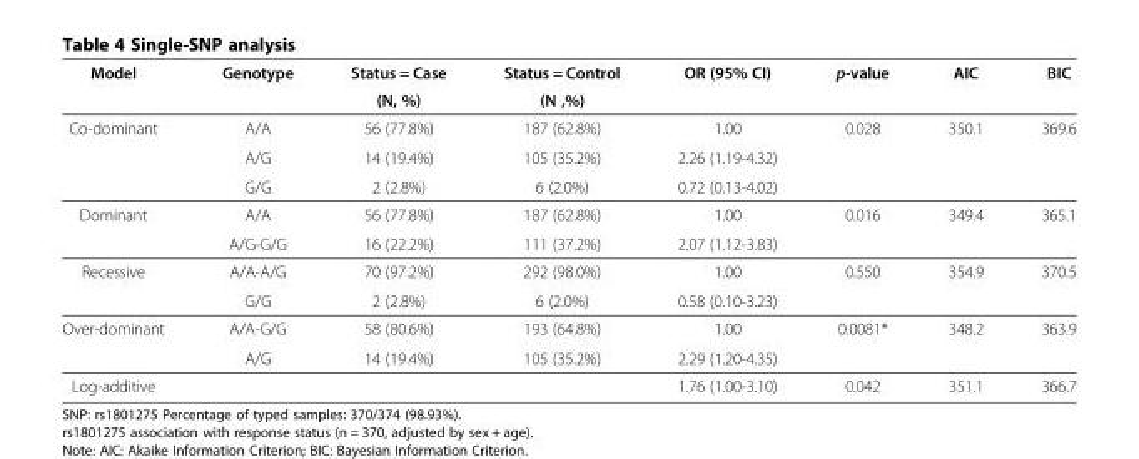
<table><thead><tr><td rowspan="2">Model</td><td rowspan="2">Genotype</td><td rowspan="2">Status = Case (N, %)</td><td rowspan="2">Status = Control (N ,%)</td><td rowspan="2">OR (95% CI)</td><td rowspan="2">p-value</td><td rowspan="2">AIC</td><td rowspan="2">BIC</td></tr><tr></tr></thead><tbody><tr><td rowspan="3">Co-dominant</td><td>A/A</td><td>56 (77.8%)</td><td>187 (62.8%)</td><td>1.00</td><td>0.028</td><td>350.1</td><td>369.6</td></tr><tr><td>A/G</td><td>14 (19.4%)</td><td>105 (35.2%)</td><td>2.26 (1.19-4.32)</td><td></td><td></td><td></td></tr><tr><td>G/G</td><td>2 (2.8%)</td><td>6 (2.0%)</td><td>0.72 (0.13-4.02)</td><td></td><td></td><td></td></tr><tr><td rowspan="2">Dominant</td><td>A/A</td><td>56 (77.8%)</td><td>187 (62.8%)</td><td>1.00</td><td>0.016</td><td>349.4</td><td>365.1</td></tr><tr><td>A/G-G/G</td><td>16 (22.2%)</td><td>111 (37.2%)</td><td>2.07 (1.12-3.83)</td><td></td><td></td><td></td></tr><tr><td rowspan="2">Recessive</td><td>A/A-A/G</td><td>70 (97.2%)</td><td>292 (98.0%)</td><td>1.00</td><td>0.550</td><td>354.9</td><td>370.5</td></tr><tr><td>G/G</td><td>2 (2.8%)</td><td>6 (2.0%)</td><td>0.58 (0.10-3.23)</td><td></td><td></td><td></td></tr><tr><td rowspan="2">Over-dominant</td><td>A/A-G/G</td><td>58 (80.6%)</td><td>193 (64.8%)</td><td>1.00</td><td>0.0081*</td><td>348.2</td><td>363.9</td></tr><tr><td>A/G</td><td>14 (19.4%)</td><td>105 (35.2%)</td><td>2.29 (1.20-4.35)</td><td></td><td></td><td></td></tr><tr><td>Log-additive</td><td></td><td></td><td></td><td>1.76 (1.00-3.10)</td><td>0.042</td><td>351.1</td><td>366.7</td></tr></tbody></table>